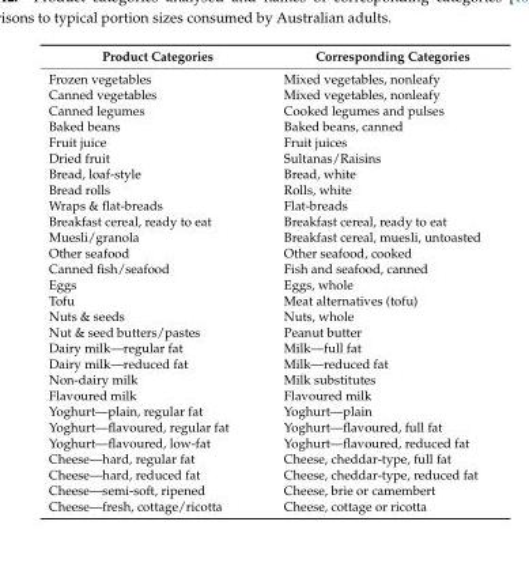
<table><thead><tr><td>Product Categories</td><td>Corresponding Categories</td></tr></thead><tbody><tr><td>Frozen vegetables</td><td>Mixed vegetables, nonleafy</td></tr><tr><td>Canned vegetables</td><td>Mixed vegetables, nonleafy</td></tr><tr><td>Canned legumes</td><td>Cooked legumes and pulses</td></tr><tr><td>Baked beans</td><td>Baked beans, canned</td></tr><tr><td>Fruit juice</td><td>Fruit juices</td></tr><tr><td>Dried fruit</td><td>Sultanas/Raisins</td></tr><tr><td>Bread, loaf-style</td><td>Bread, white</td></tr><tr><td>Bread rolls</td><td>Rolls, white</td></tr><tr><td>Wraps &amp; flat-breads</td><td>Flat-breads</td></tr><tr><td>Breakfast cereal, ready to eat</td><td>Breakfast cereal, ready to eat</td></tr><tr><td>Muesli/granola</td><td>Breakfast cereal, muesli, untoasted</td></tr><tr><td>Other seafood</td><td>Other seafood, cooked</td></tr><tr><td>Canned fish/seafood</td><td>Fish and seafood, canned</td></tr><tr><td>Eggs</td><td>Eggs, whole</td></tr><tr><td>Tofu</td><td>Meat alternatives (tofu)</td></tr><tr><td>Nuts &amp; seeds</td><td>Nuts, whole</td></tr><tr><td>Nut &amp; seed butters/pastes</td><td>Peanut butter</td></tr><tr><td>Dairy milk—regular fat</td><td>Milk—full fat</td></tr><tr><td>Dairy milk—reduced fat</td><td>Milk—reduced fat</td></tr><tr><td>Non-dairy milk</td><td>Milk substitutes</td></tr><tr><td>Flavoured milk</td><td>Flavoured milk</td></tr><tr><td>Yoghurt—plain, regular fat</td><td>Yoghurt—plain</td></tr><tr><td>Yoghurt—flavoured, regular fat</td><td>Yoghurt—flavoured, full fat</td></tr><tr><td>Yoghurt—flavoured, low-fat</td><td>Yoghurt—flavoured, reduced fat</td></tr><tr><td>Cheese—hard, regular fat</td><td>Cheese, cheddar-type, full fat</td></tr><tr><td>Cheese—hard, reduced fat</td><td>Cheese, cheddar-type, reduced fat</td></tr><tr><td>Cheese—semi-soft, ripened</td><td>Cheese, brie or camembert</td></tr><tr><td>Cheese—fresh, cottage/ricotta</td><td>Cheese, cottage or ricotta</td></tr></tbody></table>